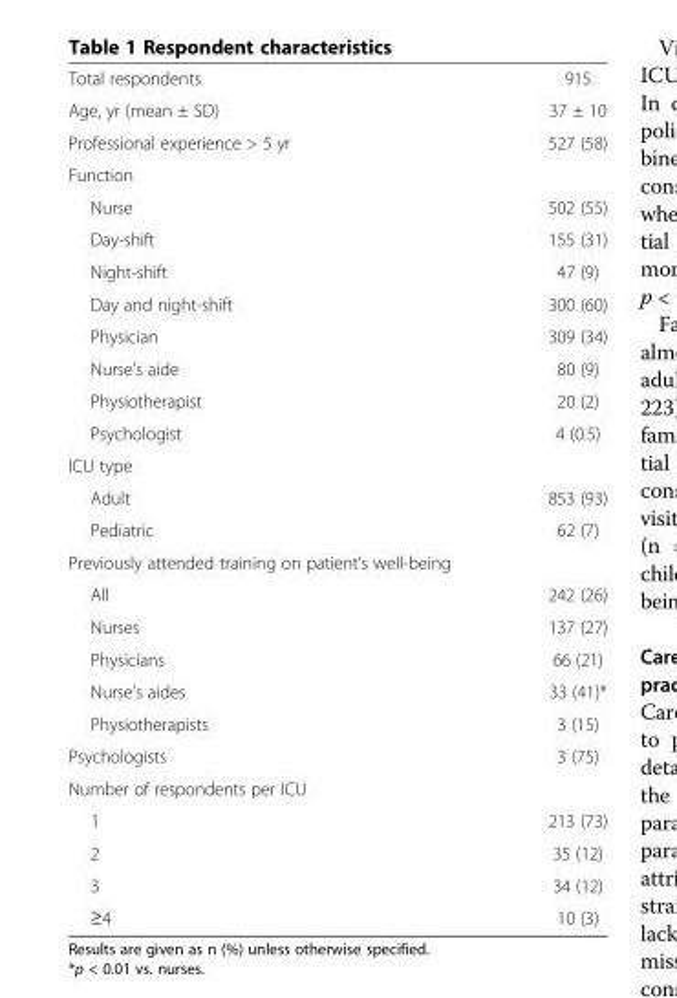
<table><tbody><tr><td>Total respondents</td><td>915</td></tr><tr><td>Age, yr (mean ± SD)</td><td>37 ± 10</td></tr><tr><td>Professional experience &gt; 5 yr</td><td>527 (58)</td></tr><tr><td colspan="2">Function</td></tr><tr><td>Nurse</td><td>502 (55)</td></tr><tr><td>Day-shift</td><td>155 (31)</td></tr><tr><td>Night-shift</td><td>47 (9)</td></tr><tr><td>Day and night-shift</td><td>300 (60)</td></tr><tr><td>Physician</td><td>309 (34)</td></tr><tr><td>Nurse’s aide</td><td>80 (9)</td></tr><tr><td>Physiotherapist</td><td>20 (2)</td></tr><tr><td>Psychologist</td><td>4 (0.5)</td></tr><tr><td colspan="2">ICU type</td></tr><tr><td>Adult</td><td>853 (93)</td></tr><tr><td>Pediatric</td><td>62 (7)</td></tr><tr><td colspan="2">Previously attended training on patient’s well-being</td></tr><tr><td>All</td><td>242 (26)</td></tr><tr><td>Nurses</td><td>137 (27)</td></tr><tr><td>Physicians</td><td>66 (21)</td></tr><tr><td>Nurse’s aides</td><td>33 (41)*</td></tr><tr><td>Physiotherapists</td><td>3 (15)</td></tr><tr><td>Psychologists</td><td>3 (75)</td></tr><tr><td colspan="2">Number of respondents per ICU</td></tr><tr><td>1</td><td>213 (73)</td></tr><tr><td>2</td><td>35 (12)</td></tr><tr><td>3</td><td>34 (12)</td></tr><tr><td>≥4</td><td>10 (3)</td></tr></tbody></table>